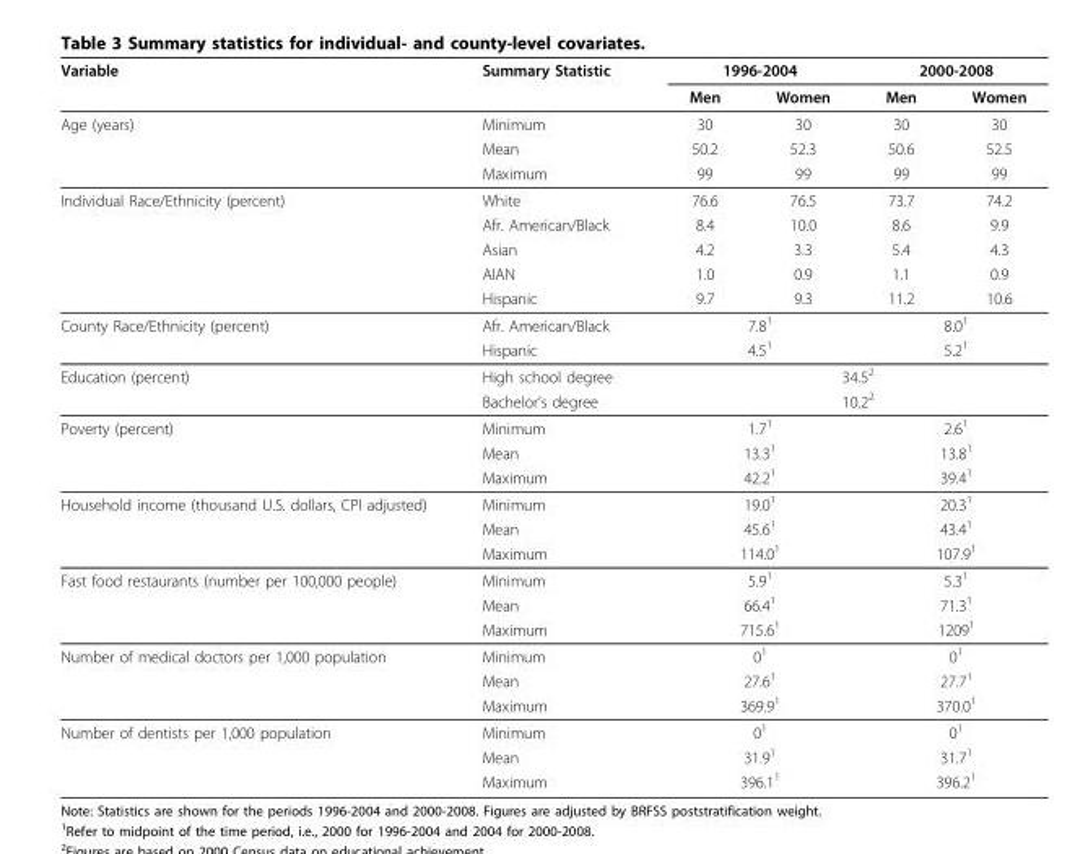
<table><thead><tr><td rowspan="2">Variable</td><td rowspan="2">Summary Statistic</td><td colspan="2">1996-2004</td><td colspan="2">2000-2008</td></tr><tr><td>Men</td><td>Women</td><td>Men</td><td>Women</td></tr></thead><tbody><tr><td rowspan="3">Age (years)</td><td>Minimum</td><td>30</td><td>30</td><td>30</td><td>30</td></tr><tr><td>Mean</td><td>50.2</td><td>52.3</td><td>50.6</td><td>52.5</td></tr><tr><td>Maximum</td><td>99</td><td>99</td><td>99</td><td>99</td></tr><tr><td rowspan="5">Individual Race/Ethnicity (percent)</td><td>White</td><td>76.6</td><td>76.5</td><td>73.7</td><td>74.2</td></tr><tr><td>Afr. American/Black</td><td>8.4</td><td>10.0</td><td>8.6</td><td>9.9</td></tr><tr><td>Asian</td><td>4.2</td><td>3.3</td><td>5.4</td><td>4.3</td></tr><tr><td>AIAN</td><td>1.0</td><td>0.9</td><td>1.1</td><td>0.9</td></tr><tr><td>Hispanic</td><td>9.7</td><td>9.3</td><td>11.2</td><td>10.6</td></tr><tr><td rowspan="2">County Race/Ethnicity (percent)</td><td>Afr. American/Black</td><td colspan="2">7.8<sup>1</sup></td><td colspan="2">8.0<sup>1</sup></td></tr><tr><td>Hispanic</td><td colspan="2">4.5<sup>1</sup></td><td colspan="2">5.2<sup>1</sup></td></tr><tr><td rowspan="2">Education (percent)</td><td>High school degree</td><td colspan="4">34.5<sup>2</sup></td></tr><tr><td>Bachelor’s degree</td><td colspan="4">10.2<sup>2</sup></td></tr><tr><td rowspan="3">Poverty (percent)</td><td>Minimum</td><td colspan="2">1.7<sup>1</sup></td><td colspan="2">2.6<sup>1</sup></td></tr><tr><td>Mean</td><td colspan="2">13.3<sup>1</sup></td><td colspan="2">13.8<sup>1</sup></td></tr><tr><td>Maximum</td><td colspan="2">42.2<sup>1</sup></td><td colspan="2">39.4<sup>1</sup></td></tr><tr><td rowspan="3">Household income (thousand U.S. dollars, CPI adjusted)</td><td>Minimum</td><td colspan="2">19.0<sup>1</sup></td><td colspan="2">20.3<sup>1</sup></td></tr><tr><td>Mean</td><td colspan="2">45.6<sup>1</sup></td><td colspan="2">43.4<sup>1</sup></td></tr><tr><td>Maximum</td><td colspan="2">114.0<sup>1</sup></td><td colspan="2">107.9<sup>1</sup></td></tr><tr><td rowspan="3">Fast food restaurants (number per 100,000 people)</td><td>Minimum</td><td colspan="2">5.9<sup>1</sup></td><td colspan="2">5.3<sup>1</sup></td></tr><tr><td>Mean</td><td colspan="2">66.4<sup>1</sup></td><td colspan="2">71.3<sup>1</sup></td></tr><tr><td>Maximum</td><td colspan="2">715.6<sup>1</sup></td><td colspan="2">1209<sup>1</sup></td></tr><tr><td rowspan="3">Number of medical doctors per 1,000 population</td><td>Minimum</td><td colspan="2">0<sup>1</sup></td><td colspan="2">0<sup>1</sup></td></tr><tr><td>Mean</td><td colspan="2">27.6<sup>1</sup></td><td colspan="2">27.7<sup>1</sup></td></tr><tr><td>Maximum</td><td colspan="2">369.9<sup>1</sup></td><td colspan="2">370.0<sup>1</sup></td></tr><tr><td rowspan="3">Number of dentists per 1,000 population</td><td>Minimum</td><td colspan="2">0<sup>1</sup></td><td colspan="2">0<sup>1</sup></td></tr><tr><td>Mean</td><td colspan="2">31.9<sup>1</sup></td><td colspan="2">31.7<sup>1</sup></td></tr><tr><td>Maximum</td><td colspan="2">396.1<sup>1</sup></td><td colspan="2">396.2<sup>1</sup></td></tr></tbody></table>